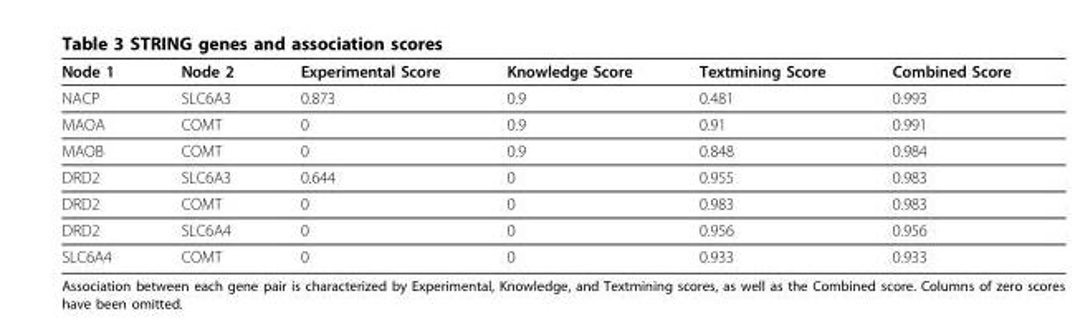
<table><thead><tr><td>Node 1</td><td>Node 2</td><td>Experimental Score</td><td>Knowledge Score</td><td>Textmining Score</td><td>Combined Score</td></tr></thead><tbody><tr><td>NACP</td><td>SLC6A3</td><td>0.873</td><td>0.9</td><td>0.481</td><td>0.993</td></tr><tr><td>MAOA</td><td>COMT</td><td>0</td><td>0.9</td><td>0.91</td><td>0.991</td></tr><tr><td>MAOB</td><td>COMT</td><td>0</td><td>0.9</td><td>0.848</td><td>0.984</td></tr><tr><td>DRD2</td><td>SLC6A3</td><td>0.644</td><td>0</td><td>0.955</td><td>0.983</td></tr><tr><td>DRD2</td><td>COMT</td><td>0</td><td>0</td><td>0.983</td><td>0.983</td></tr><tr><td>DRD2</td><td>SLC6A4</td><td>0</td><td>0</td><td>0.956</td><td>0.956</td></tr><tr><td>SLC6A4</td><td>COMT</td><td>0</td><td>0</td><td>0.933</td><td>0.933</td></tr></tbody></table>